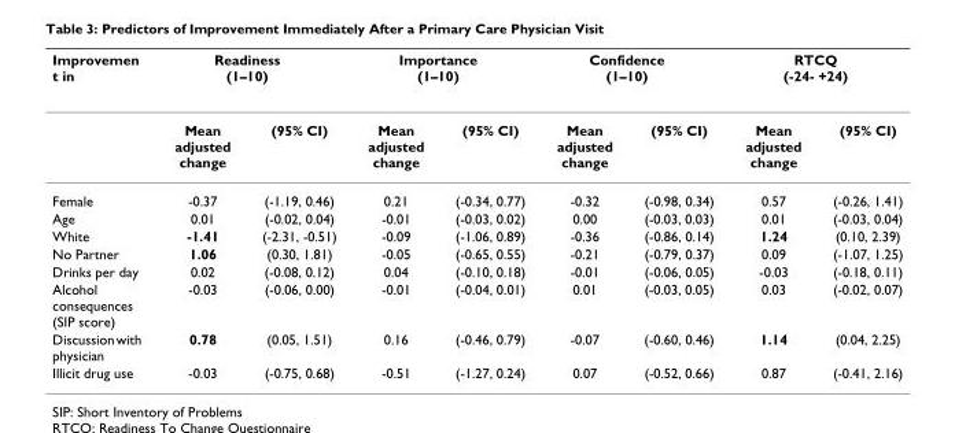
<table><thead><tr><td rowspan="2">Improvemen t in</td><td colspan="2">Readiness (1–10)</td><td colspan="2">Importance (1–10)</td><td colspan="2">Confidence (1–10)</td><td colspan="2">RTCQ (-24- +24)</td></tr><tr><td>Mean adjusted change</td><td>(95% CI)</td><td>Mean adjusted change</td><td>(95% CI)</td><td>Mean adjusted change</td><td>(95% CI)</td><td>Mean adjusted change</td><td>(95% CI)</td></tr></thead><tbody><tr><td>Female</td><td>-0.37</td><td>(-1.19, 0.46)</td><td>0.21</td><td>(-0.34, 0.77)</td><td>-0.32</td><td>(-0.98, 0.34)</td><td>0.57</td><td>(-0.26, 1.41)</td></tr><tr><td>Age</td><td>0.01</td><td>(-0.02, 0.04)</td><td>-0.01</td><td>(-0.03, 0.02)</td><td>0.00</td><td>(-0.03, 0.03)</td><td>0.01</td><td>(-0.03, 0.04)</td></tr><tr><td>White</td><td>-1.41</td><td>(-2.31, -0.51)</td><td>-0.09</td><td>(-1.06, 0.89)</td><td>-0.36</td><td>(-0.86, 0.14)</td><td>1.24</td><td>(0.10, 2.39)</td></tr><tr><td>No Partner</td><td>1.06</td><td>(0.30, 1.81)</td><td>-0.05</td><td>(-0.65, 0.55)</td><td>-0.21</td><td>(-0.79, 0.37)</td><td>0.09</td><td>(-1.07, 1.25)</td></tr><tr><td>Drinks per day</td><td>0.02</td><td>(-0.08, 0.12)</td><td>0.04</td><td>(-0.10, 0.18)</td><td>-0.01</td><td>(-0.06, 0.05)</td><td>-0.03</td><td>(-0.18, 0.11)</td></tr><tr><td>Alcohol consequences (SIP score)</td><td>-0.03</td><td>(-0.06, 0.00)</td><td>-0.01</td><td>(-0.04, 0.01)</td><td>0.01</td><td>(-0.03, 0.05)</td><td>0.03</td><td>(-0.02, 0.07)</td></tr><tr><td>Discussion with physician</td><td>0.78</td><td>(0.05, 1.51)</td><td>0.16</td><td>(-0.46, 0.79)</td><td>-0.07</td><td>(-0.60, 0.46)</td><td>1.14</td><td>(0.04, 2.25)</td></tr><tr><td>Illicit drug use</td><td>-0.03</td><td>(-0.75, 0.68)</td><td>-0.51</td><td>(-1.27, 0.24)</td><td>0.07</td><td>(-0.52, 0.66)</td><td>0.87</td><td>(-0.41, 2.16)</td></tr></tbody></table>